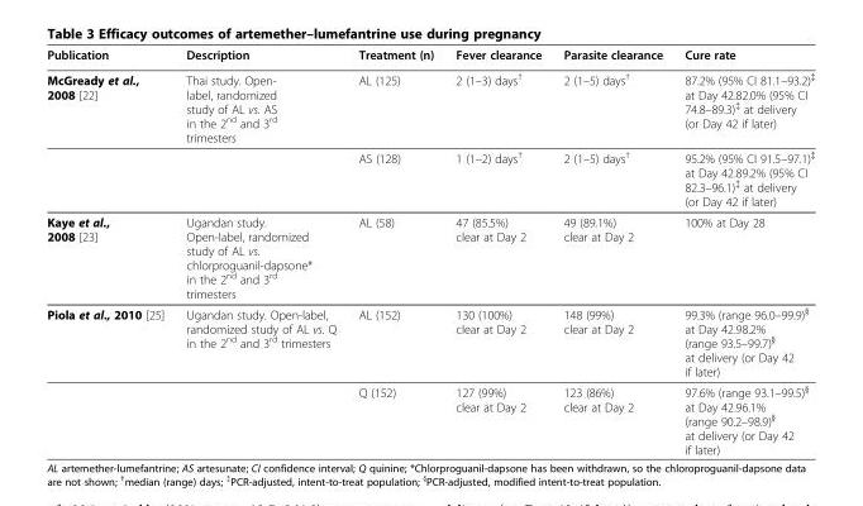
<table><thead><tr><td>Publication</td><td>Description</td><td>Treatment (n)</td><td>Fever clearance</td><td>Parasite clearance</td><td>Cure rate</td></tr></thead><tbody><tr><td rowspan="2">McGready et al., 2008 [22]</td><td>Thai study. Open- label, randomized study of AL vs. AS in the 2<sup>nd</sup> and 3<sup>rd</sup> trimesters</td><td>AL (125)</td><td>2 (1–3) days<sup>†</sup></td><td>2 (1–5) days<sup>†</sup></td><td>87.2% (95% CI 81.1–93.2)<sup>‡</sup> at Day 42.82.0% (95% CI 74.8–89.3)<sup>‡</sup> at delivery (or Day 42 if later)</td></tr><tr><td></td><td>AS (128)</td><td>1 (1–2) days<sup>†</sup></td><td>2 (1–5) days<sup>†</sup></td><td>95.2% (95% CI 91.5–97.1)<sup>‡</sup> at Day 42.89.2% (95% CI 82.3–96.1)<sup>‡</sup> at delivery (or Day 42 if later)</td></tr><tr><td>Kaye et al., 2008 [23]</td><td>Ugandan study. Open-label, randomized study of AL vs. chlorproguanil-dapsone* in the 2<sup>nd</sup> and 3<sup>rd</sup> trimesters</td><td>AL (58)</td><td>47 (85.5%) clear at Day 2</td><td>49 (89.1%) clear at Day 2</td><td>100% at Day 28</td></tr><tr><td rowspan="2">Piola et al., 2010 [25]</td><td>Ugandan study. Open-label, randomized study of AL vs. Q in the 2<sup>nd</sup> and 3<sup>rd</sup> trimesters</td><td>AL (152)</td><td>130 (100%) clear at Day 2</td><td>148 (99%) clear at Day 2</td><td>99.3% (range 96.0–99.9)<sup>§</sup> at Day 42.98.2% (range 93.5–99.7)<sup>§</sup> at delivery (or Day 42 if later)</td></tr><tr><td></td><td>Q (152)</td><td>127 (99%) clear at Day 2</td><td>123 (86%) clear at Day 2</td><td>97.6% (range 93.1–99.5)<sup>§</sup> at Day 42.96.1% (range 90.2–98.9)<sup>§</sup> at delivery (or Day 42 if later)</td></tr></tbody></table>